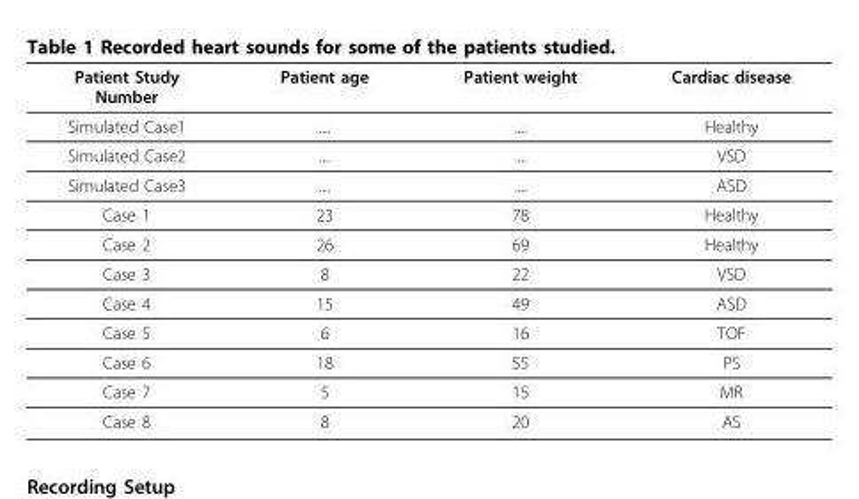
<table><thead><tr><td>Patient Study Number</td><td>Patient age</td><td>Patient weight</td><td>Cardiac disease</td></tr></thead><tbody><tr><td>Simulated Case1</td><td>....</td><td>....</td><td>Healthy</td></tr><tr><td>Simulated Case2</td><td>....</td><td>....</td><td>VSD</td></tr><tr><td>Simulated Case3</td><td>....</td><td>....</td><td>ASD</td></tr><tr><td>Case 1</td><td>23</td><td>78</td><td>Healthy</td></tr><tr><td>Case 2</td><td>26</td><td>69</td><td>Healthy</td></tr><tr><td>Case 3</td><td>8</td><td>22</td><td>VSD</td></tr><tr><td>Case 4</td><td>15</td><td>49</td><td>ASD</td></tr><tr><td>Case 5</td><td>6</td><td>16</td><td>TOF</td></tr><tr><td>Case 6</td><td>18</td><td>55</td><td>PS</td></tr><tr><td>Case 7</td><td>5</td><td>15</td><td>MR</td></tr><tr><td>Case 8</td><td>8</td><td>20</td><td>AS</td></tr></tbody></table>